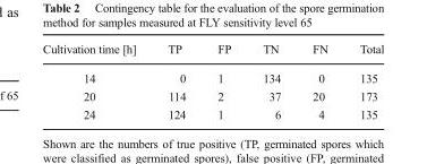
<table><thead><tr><td>Cultivation time [h]</td><td>TP</td><td>FP</td><td>TN</td><td>FN</td><td>Total</td></tr></thead><tbody><tr><td>14</td><td>0</td><td>1</td><td>134</td><td>0</td><td>135</td></tr><tr><td>20</td><td>114</td><td>2</td><td>37</td><td>20</td><td>173</td></tr><tr><td>24</td><td>124</td><td>1</td><td>6</td><td>4</td><td>135</td></tr></tbody></table>